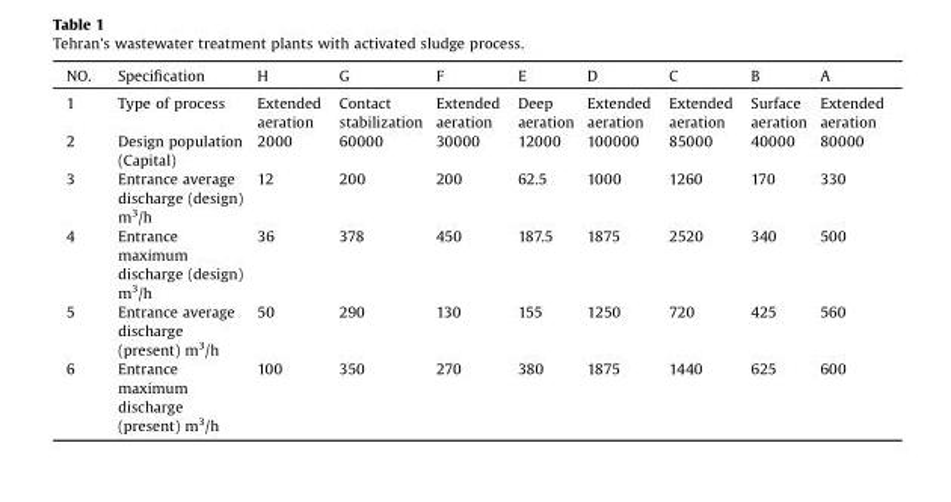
<table><thead><tr><td>NO.</td><td>Specification</td><td>H</td><td>G</td><td>F</td><td>E</td><td>D</td><td>C</td><td>B</td><td>A</td></tr></thead><tbody><tr><td>1</td><td>Type of process</td><td>Extended aeration</td><td>Contact stabilization</td><td>Extended aeration</td><td>Deep aeration</td><td>Extended aeration</td><td>Extended aeration</td><td>Surface aeration</td><td>Extended aeration</td></tr><tr><td>2</td><td>Design population (Capital)</td><td>2000</td><td>60000</td><td>30000</td><td>12000</td><td>100000</td><td>85000</td><td>40000</td><td>80000</td></tr><tr><td>3</td><td>Entrance average discharge (design) m<sup>3</sup>/h</td><td>12</td><td>200</td><td>200</td><td>62.5</td><td>1000</td><td>1260</td><td>170</td><td>330</td></tr><tr><td>4</td><td>Entrance maximum discharge (design) m<sup>3</sup>/h</td><td>36</td><td>378</td><td>450</td><td>187.5</td><td>1875</td><td>2520</td><td>340</td><td>500</td></tr><tr><td>5</td><td>Entrance average discharge (present) m<sup>3</sup>/h</td><td>50</td><td>290</td><td>130</td><td>155</td><td>1250</td><td>720</td><td>425</td><td>560</td></tr><tr><td>6</td><td>Entrance maximum discharge (present) m<sup>3</sup>/h</td><td>100</td><td>350</td><td>270</td><td>380</td><td>1875</td><td>1440</td><td>625</td><td>600</td></tr></tbody></table>